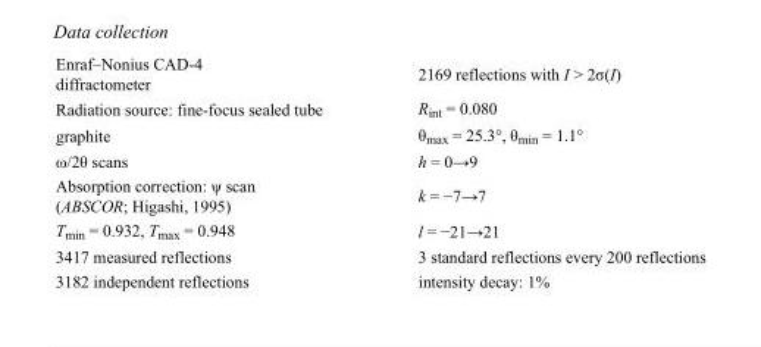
<table><tbody><tr><td>Enraf–Nonius CAD-4 diffractometer</td><td>2169 reflections with I &gt; 2σ(I)</td></tr><tr><td>Radiation source: fine-focus sealed tube</td><td>R<sub>int</sub> = 0.080</td></tr><tr><td>graphite</td><td>θ<sub>max</sub> = 25.3°, θ<sub>min</sub> = 1.1°</td></tr><tr><td>ω/2θ scans</td><td>h = 0→9</td></tr><tr><td>Absorption correction: ψ scan (ABSCOR; Higashi, 1995)</td><td>k = −7→7</td></tr><tr><td>T<sub>min</sub> = 0.932, T<sub>max</sub> = 0.948</td><td>l = −21→21</td></tr><tr><td>3417 measured reflections</td><td>3 standard reflections every 200 reflections</td></tr><tr><td>3182 independent reflections</td><td>intensity decay: 1%</td></tr></tbody></table>